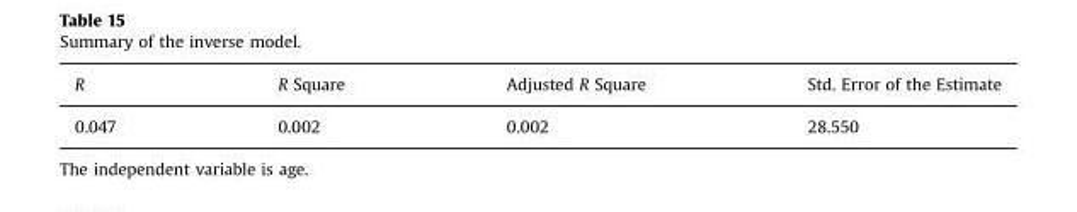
<table><thead><tr><td>R</td><td>R Square</td><td>Adjusted R Square</td><td>Std. Error of the Estimate</td></tr></thead><tbody><tr><td>0.047</td><td>0.002</td><td>0.002</td><td>28.550</td></tr></tbody></table>